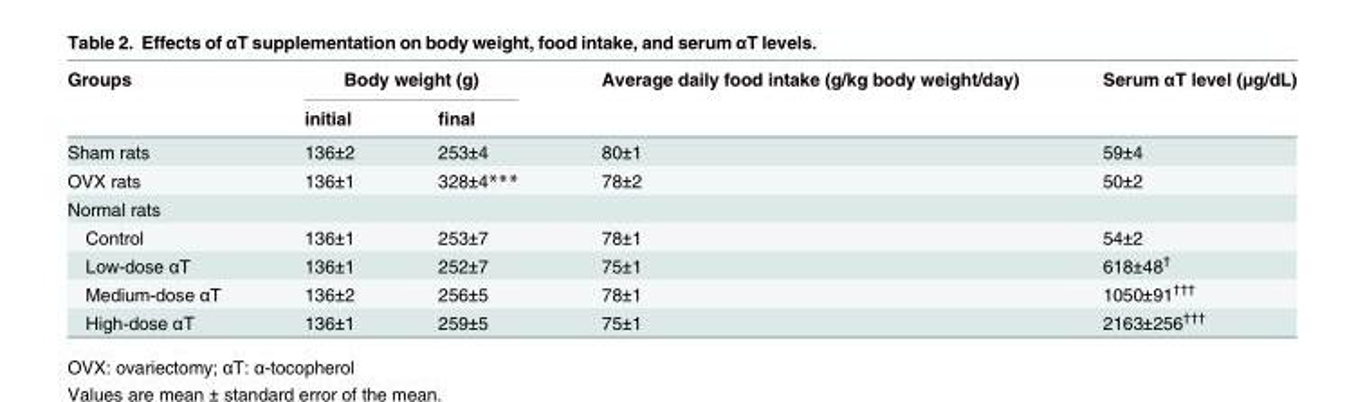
<table><thead><tr><td rowspan="2">Groups</td><td colspan="2">Body weight (g)</td><td rowspan="2">Average daily food intake (g/kg body weight/day)</td><td rowspan="2">Serum αT level (μg/dL)</td></tr><tr><td>initial</td><td>final</td></tr></thead><tbody><tr><td>Sham rats</td><td>136±2</td><td>253±4</td><td>80±1</td><td>59±4</td></tr><tr><td>OVX rats</td><td>136±1</td><td>328±4***</td><td>78±2</td><td>50±2</td></tr><tr><td colspan="5">Normal rats</td></tr><tr><td>Control</td><td>136±1</td><td>253±7</td><td>78±1</td><td>54±2</td></tr><tr><td>Low-dose αT</td><td>136±1</td><td>252±7</td><td>75±1</td><td>618±48<sup>†</sup></td></tr><tr><td>Medium-dose αT</td><td>136±2</td><td>256±5</td><td>78±1</td><td>1050±91<sup>†††</sup></td></tr><tr><td>High-dose αT</td><td>136±1</td><td>259±5</td><td>75±1</td><td>2163±256<sup>†††</sup></td></tr></tbody></table>